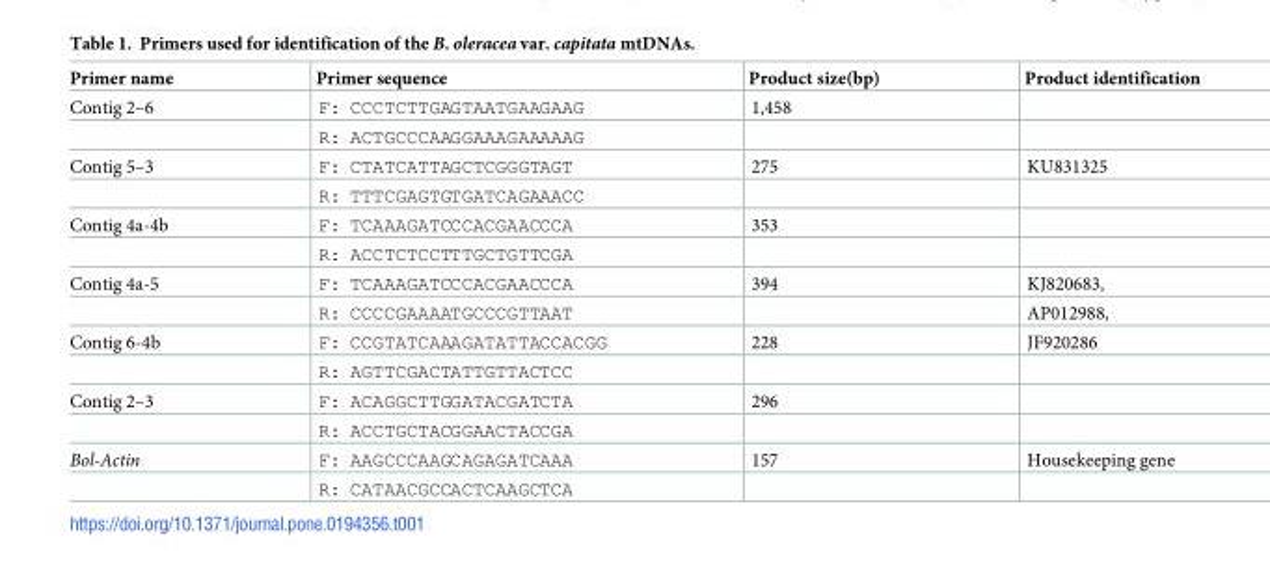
<table><thead><tr><td>Primer name</td><td>Primer sequence</td><td>Product size(bp)</td><td>Product identification</td></tr></thead><tbody><tr><td rowspan="2">Contig 2–6</td><td>F: CCCTCTTGAGTAATGAAGAAG</td><td>1,458</td><td></td></tr><tr><td>R: ACTGCCCAAGGAAAGAAAAAG</td><td></td><td></td></tr><tr><td rowspan="2">Contig 5–3</td><td>F: CTATCATTAGCTCGGGTAGT</td><td>275</td><td>KU831325</td></tr><tr><td>R: TTTCGAGTGTGATCAGAAACC</td><td></td><td></td></tr><tr><td rowspan="2">Contig 4a-4b</td><td>F: TCAAAGATCCCACGAACCCA</td><td>353</td><td></td></tr><tr><td>R: ACCTCTCCTTTGCTGTTCGA</td><td></td><td></td></tr><tr><td rowspan="2">Contig 4a-5</td><td>F: TCAAAGATCCCACGAACCCA</td><td>394</td><td>KJ820683,</td></tr><tr><td>R: CCCCGAAAATGCCCGTTAAT</td><td></td><td>AP012988,</td></tr><tr><td rowspan="2">Contig 6-4b</td><td>F: CCGTATCAAAGATATTACCACGG</td><td>228</td><td>JF920286</td></tr><tr><td>R: AGTTCGACTATTGTTACTCC</td><td></td><td></td></tr><tr><td rowspan="2">Contig 2–3</td><td>F: ACAGGCTTGGATACGATCTA</td><td>296</td><td></td></tr><tr><td>R: ACCTGCTACGGAACTACCGA</td><td></td><td></td></tr><tr><td rowspan="2">Bol-Actin</td><td>F: AAGCCCAAGCAGAGATCAAA</td><td>157</td><td>Housekeeping gene</td></tr><tr><td>R: CATAACGCCACTCAAGCTCA</td><td></td><td></td></tr></tbody></table>